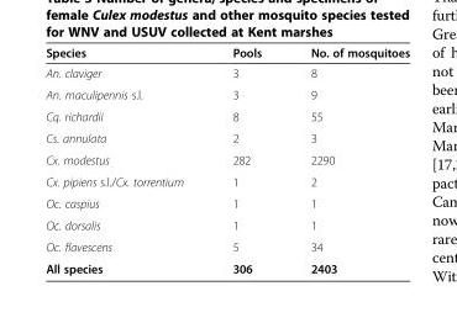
<table><thead><tr><td>Species</td><td>Pools</td><td>No. of mosquitoes</td></tr></thead><tbody><tr><td>An. claviger</td><td>3</td><td>8</td></tr><tr><td>An. maculipennis s.l.</td><td>3</td><td>9</td></tr><tr><td>Cq. richardii</td><td>8</td><td>55</td></tr><tr><td>Cs. annulata</td><td>2</td><td>3</td></tr><tr><td>Cx. modestus</td><td>282</td><td>2290</td></tr><tr><td>Cx. pipiens s.l./Cx. torrentium</td><td>1</td><td>2</td></tr><tr><td>Oc. caspius</td><td>1</td><td>1</td></tr><tr><td>Oc. dorsalis</td><td>1</td><td>1</td></tr><tr><td>Oc. flavescens</td><td>5</td><td>34</td></tr><tr><td>All species</td><td>306</td><td>2403</td></tr></tbody></table>